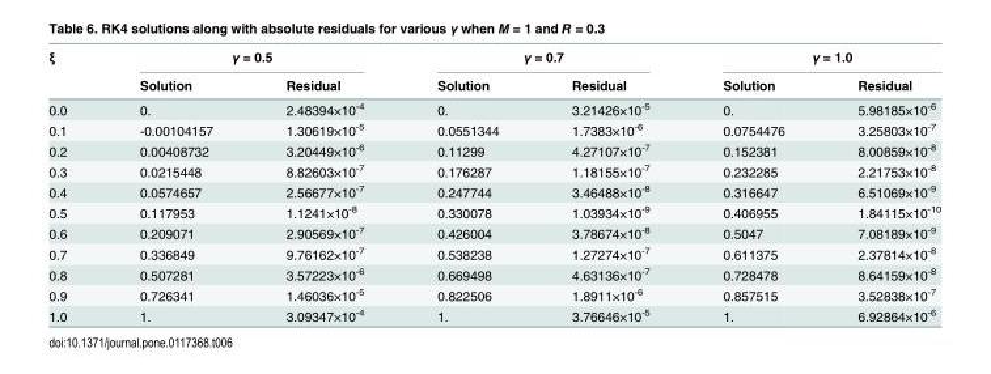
<table><thead><tr><td rowspan="2">ξ</td><td colspan="2">γ = 0.5</td><td colspan="2">γ = 0.7</td><td colspan="2">γ = 1.0</td></tr><tr><td>Solution</td><td>Residual</td><td>Solution</td><td>Residual</td><td>Solution</td><td>Residual</td></tr></thead><tbody><tr><td>0.0</td><td>0.</td><td>2.48394×10<sup>-4</sup></td><td>0.</td><td>3.21426×10<sup>-5</sup></td><td>0.</td><td>5.98185×10<sup>-6</sup></td></tr><tr><td>0.1</td><td>-0.00104157</td><td>1.30619×10<sup>-5</sup></td><td>0.0551344</td><td>1.7383×10<sup>-6</sup></td><td>0.0754476</td><td>3.25803×10<sup>-7</sup></td></tr><tr><td>0.2</td><td>0.00408732</td><td>3.20449×10<sup>-6</sup></td><td>0.11299</td><td>4.27107×10<sup>-7</sup></td><td>0.152381</td><td>8.00859×10<sup>-8</sup></td></tr><tr><td>0.3</td><td>0.0215448</td><td>8.82603×10<sup>-7</sup></td><td>0.176287</td><td>1.18155×10<sup>-7</sup></td><td>0.232285</td><td>2.21753×10<sup>-8</sup></td></tr><tr><td>0.4</td><td>0.0574657</td><td>2.56677×10<sup>-7</sup></td><td>0.247744</td><td>3.46488×10<sup>-8</sup></td><td>0.316647</td><td>6.51069×10<sup>-9</sup></td></tr><tr><td>0.5</td><td>0.117953</td><td>1.1241×10<sup>-8</sup></td><td>0.330078</td><td>1.03934×10<sup>-9</sup></td><td>0.406955</td><td>1.84115×10<sup>-10</sup></td></tr><tr><td>0.6</td><td>0.209071</td><td>2.90569×10<sup>-7</sup></td><td>0.426004</td><td>3.78674×10<sup>-8</sup></td><td>0.5047</td><td>7.08189×10<sup>-9</sup></td></tr><tr><td>0.7</td><td>0.336849</td><td>9.76162×10<sup>-7</sup></td><td>0.538238</td><td>1.27274×10<sup>-7</sup></td><td>0.611375</td><td>2.37814×10<sup>-8</sup></td></tr><tr><td>0.8</td><td>0.507281</td><td>3.57223×10<sup>-6</sup></td><td>0.669498</td><td>4.63136×10<sup>-7</sup></td><td>0.728478</td><td>8.64159×10<sup>-8</sup></td></tr><tr><td>0.9</td><td>0.726341</td><td>1.46036×10<sup>-5</sup></td><td>0.822506</td><td>1.8911×10<sup>-6</sup></td><td>0.857515</td><td>3.52838×10<sup>-7</sup></td></tr><tr><td>1.0</td><td>1.</td><td>3.09347×10<sup>-4</sup></td><td>1.</td><td>3.76646×10<sup>-5</sup></td><td>1.</td><td>6.92864×10<sup>-6</sup></td></tr></tbody></table>